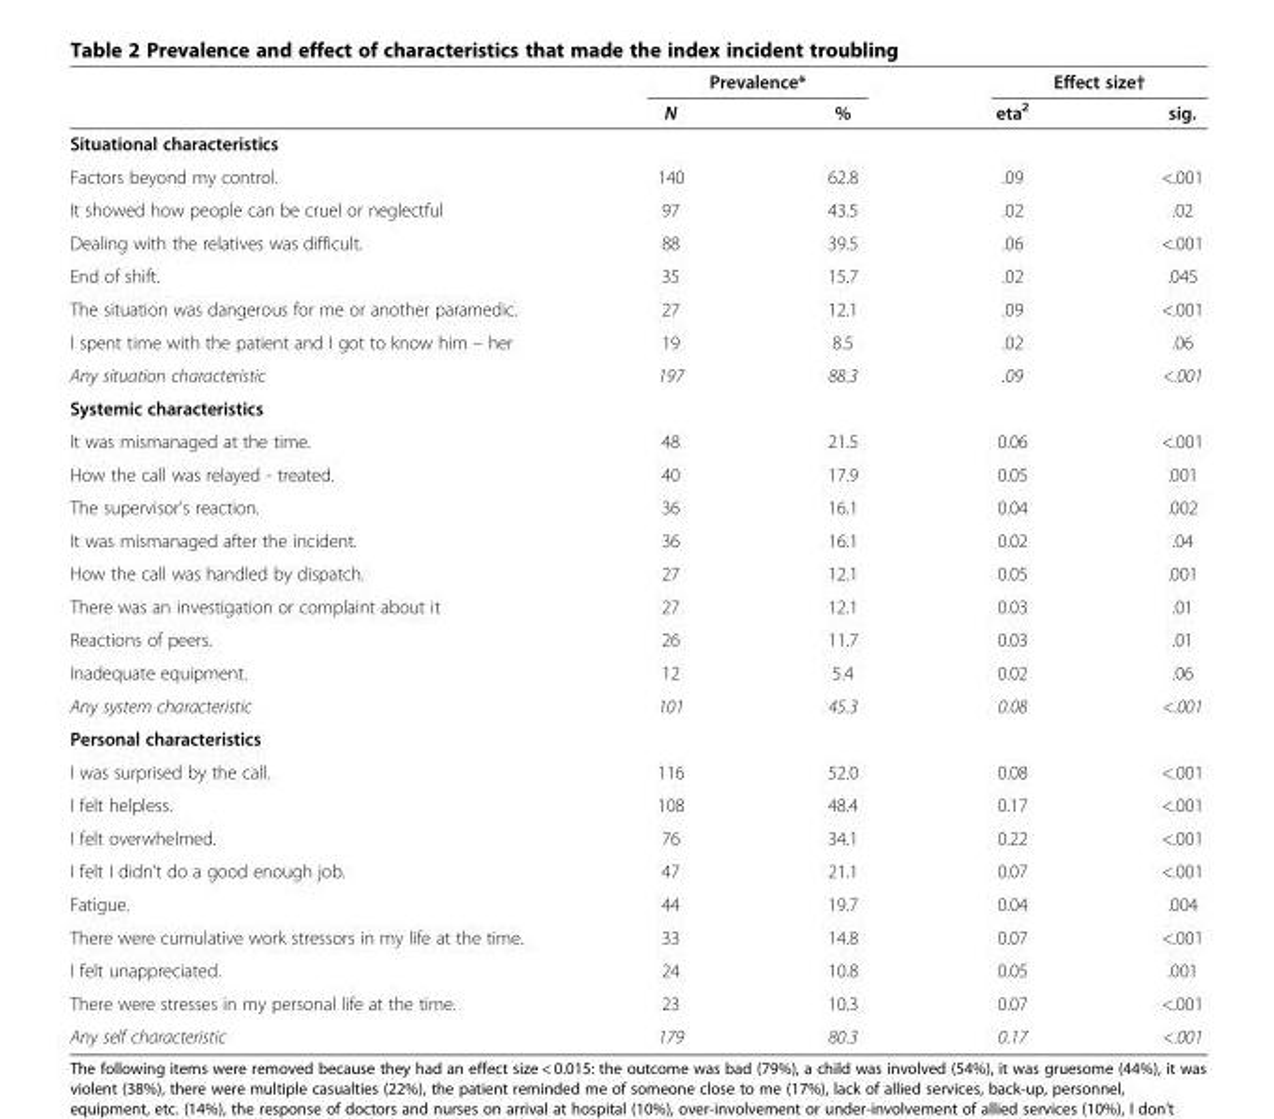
<table><thead><tr><td rowspan="2"></td><td colspan="2">Prevalence*</td><td colspan="2">Effect size†</td></tr><tr><td>N</td><td>%</td><td>eta<sup>2</sup></td><td>sig.</td></tr></thead><tbody><tr><td colspan="5">Situational characteristics</td></tr><tr><td>Factors beyond my control.</td><td>140</td><td>62.8</td><td>.09</td><td>&lt;.001</td></tr><tr><td>It showed how people can be cruel or neglectful</td><td>97</td><td>43.5</td><td>.02</td><td>.02</td></tr><tr><td>Dealing with the relatives was difficult.</td><td>88</td><td>39.5</td><td>.06</td><td>&lt;.001</td></tr><tr><td>End of shift.</td><td>35</td><td>15.7</td><td>.02</td><td>.045</td></tr><tr><td>The situation was dangerous for me or another paramedic.</td><td>27</td><td>12.1</td><td>.09</td><td>&lt;.001</td></tr><tr><td>I spent time with the patient and I got to know him – her</td><td>19</td><td>8.5</td><td>.02</td><td>.06</td></tr><tr><td>Any situation characteristic</td><td>197</td><td>88.3</td><td>.09</td><td>&lt;.001</td></tr><tr><td colspan="5">Systemic characteristics</td></tr><tr><td>It was mismanaged at the time.</td><td>48</td><td>21.5</td><td>0.06</td><td>&lt;.001</td></tr><tr><td>How the call was relayed - treated.</td><td>40</td><td>17.9</td><td>0.05</td><td>.001</td></tr><tr><td>The supervisor’s reaction.</td><td>36</td><td>16.1</td><td>0.04</td><td>.002</td></tr><tr><td>It was mismanaged after the incident.</td><td>36</td><td>16.1</td><td>0.02</td><td>.04</td></tr><tr><td>How the call was handled by dispatch.</td><td>27</td><td>12.1</td><td>0.05</td><td>.001</td></tr><tr><td>There was an investigation or complaint about it</td><td>27</td><td>12.1</td><td>0.03</td><td>.01</td></tr><tr><td>Reactions of peers.</td><td>26</td><td>11.7</td><td>0.03</td><td>.01</td></tr><tr><td>Inadequate equipment.</td><td>12</td><td>5.4</td><td>0.02</td><td>.06</td></tr><tr><td>Any system characteristic</td><td>101</td><td>45.3</td><td>0.08</td><td>&lt;.001</td></tr><tr><td colspan="5">Personal characteristics</td></tr><tr><td>I was surprised by the call.</td><td>116</td><td>52.0</td><td>0.08</td><td>&lt;.001</td></tr><tr><td>I felt helpless.</td><td>108</td><td>48.4</td><td>0.17</td><td>&lt;.001</td></tr><tr><td>I felt overwhelmed.</td><td>76</td><td>34.1</td><td>0.22</td><td>&lt;.001</td></tr><tr><td>I felt I didn’t do a good enough job.</td><td>47</td><td>21.1</td><td>0.07</td><td>&lt;.001</td></tr><tr><td>Fatigue.</td><td>44</td><td>19.7</td><td>0.04</td><td>.004</td></tr><tr><td>There were cumulative work stressors in my life at the time.</td><td>33</td><td>14.8</td><td>0.07</td><td>&lt;.001</td></tr><tr><td>I felt unappreciated.</td><td>24</td><td>10.8</td><td>0.05</td><td>.001</td></tr><tr><td>There were stresses in my personal life at the time.</td><td>23</td><td>10.3</td><td>0.07</td><td>&lt;.001</td></tr><tr><td>Any self characteristic</td><td>179</td><td>80.3</td><td>0.17</td><td>&lt;.001</td></tr></tbody></table>